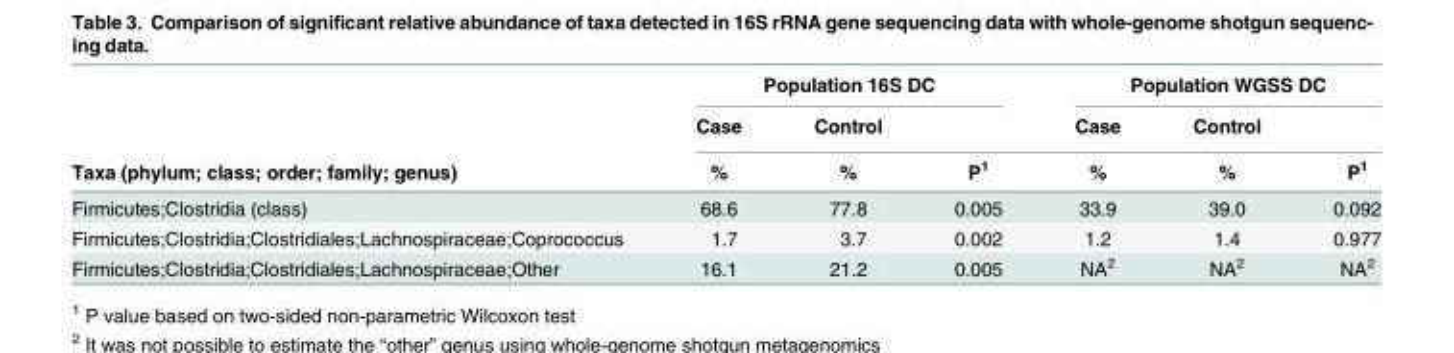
<table><thead><tr><td rowspan="3">Taxa (phylum; class; order; family; genus)</td><td colspan="3">Population 16S DC</td><td colspan="3">Population WGSS DC</td></tr><tr><td rowspan="2">Case %</td><td rowspan="2">Control %</td><td rowspan="2">P<sup>1</sup></td><td rowspan="2">Case %</td><td rowspan="2">Control %</td><td rowspan="2">P<sup>1</sup></td></tr><tr></tr></thead><tbody><tr><td>Firmicutes;Clostridia (class)</td><td>68.6</td><td>77.8</td><td>0.005</td><td>33.9</td><td>39.0</td><td>0.092</td></tr><tr><td>Firmicutes;Clostridia;Clostridiales;Lachnospiraceae;Coprococcus</td><td>1.7</td><td>3.7</td><td>0.002</td><td>1.2</td><td>1.4</td><td>0.977</td></tr><tr><td>Firmicutes;Clostridia;Clostridiales;Lachnospiraceae;Other</td><td>16.1</td><td>21.2</td><td>0.005</td><td>NA<sup>2</sup></td><td>NA<sup>2</sup></td><td>NA<sup>2</sup></td></tr></tbody></table>